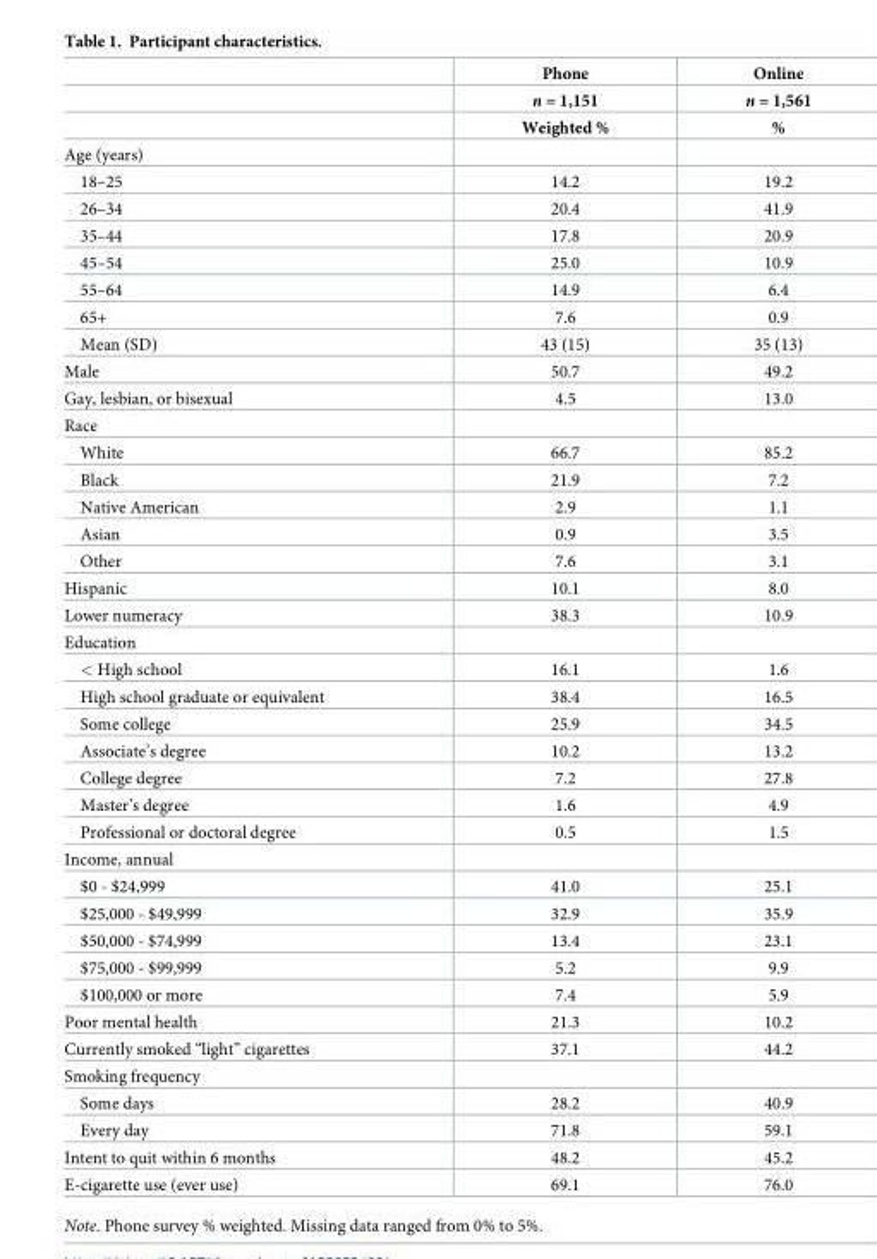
<table><thead><tr><td rowspan="3"></td><td rowspan="3">Phone n = 1,151 Weighted %</td><td rowspan="3">Online n = 1,561 %</td></tr><tr></tr><tr></tr></thead><tbody><tr><td colspan="3">Age (years)</td></tr><tr><td>18–25</td><td>14.2</td><td>19.2</td></tr><tr><td>26–34</td><td>20.4</td><td>41.9</td></tr><tr><td>35–44</td><td>17.8</td><td>20.9</td></tr><tr><td>45–54</td><td>25.0</td><td>10.9</td></tr><tr><td>55–64</td><td>14.9</td><td>6.4</td></tr><tr><td>65+</td><td>7.6</td><td>0.9</td></tr><tr><td>Mean (SD)</td><td>43 (15)</td><td>35 (13)</td></tr><tr><td>Male</td><td>50.7</td><td>49.2</td></tr><tr><td>Gay, lesbian, or bisexual</td><td>4.5</td><td>13.0</td></tr><tr><td colspan="3">Race</td></tr><tr><td>White</td><td>66.7</td><td>85.2</td></tr><tr><td>Black</td><td>21.9</td><td>7.2</td></tr><tr><td>Native American</td><td>2.9</td><td>1.1</td></tr><tr><td>Asian</td><td>0.9</td><td>3.5</td></tr><tr><td>Other</td><td>7.6</td><td>3.1</td></tr><tr><td>Hispanic</td><td>10.1</td><td>8.0</td></tr><tr><td>Lower numeracy</td><td>38.3</td><td>10.9</td></tr><tr><td colspan="3">Education</td></tr><tr><td>&lt; High school</td><td>16.1</td><td>1.6</td></tr><tr><td>High school graduate or equivalent</td><td>38.4</td><td>16.5</td></tr><tr><td>Some college</td><td>25.9</td><td>34.5</td></tr><tr><td>Associate’s degree</td><td>10.2</td><td>13.2</td></tr><tr><td>College degree</td><td>7.2</td><td>27.8</td></tr><tr><td>Master’s degree</td><td>1.6</td><td>4.9</td></tr><tr><td>Professional or doctoral degree</td><td>0.5</td><td>1.5</td></tr><tr><td colspan="3">Income, annual</td></tr><tr><td>$0 - $24,999</td><td>41.0</td><td>25.1</td></tr><tr><td>$25,000 - $49,999</td><td>32.9</td><td>35.9</td></tr><tr><td>$50,000 - $74,999</td><td>13.4</td><td>23.1</td></tr><tr><td>$75,000 - $99,999</td><td>5.2</td><td>9.9</td></tr><tr><td>$100,000 or more</td><td>7.4</td><td>5.9</td></tr><tr><td>Poor mental health</td><td>21.3</td><td>10.2</td></tr><tr><td>Currently smoked “light” cigarettes</td><td>37.1</td><td>44.2</td></tr><tr><td colspan="3">Smoking frequency</td></tr><tr><td>Some days</td><td>28.2</td><td>40.9</td></tr><tr><td>Every day</td><td>71.8</td><td>59.1</td></tr><tr><td>Intent to quit within 6 months</td><td>48.2</td><td>45.2</td></tr><tr><td>E-cigarette use (ever use)</td><td>69.1</td><td>76.0</td></tr></tbody></table>